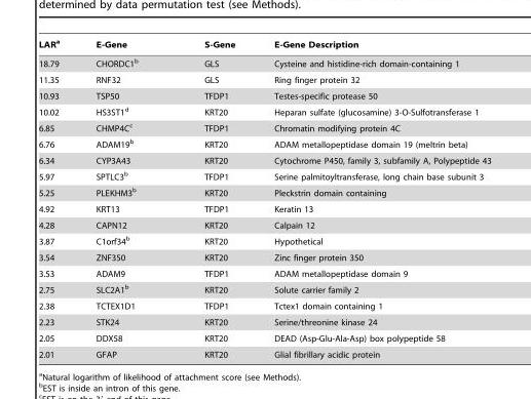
<table><thead><tr><td>LAR<sup>a</sup></td><td>E-Gene</td><td>S-Gene</td><td>E-Gene Description</td></tr></thead><tbody><tr><td>18.79</td><td>CHORDC1<sup>b</sup></td><td>GLS</td><td>Cysteine and histidine-rich domain-containing 1</td></tr><tr><td>11.35</td><td>RNF32</td><td>GLS</td><td>Ring finger protein 32</td></tr><tr><td>10.93</td><td>TSP50</td><td>TFDP1</td><td>Testes-specific protease 50</td></tr><tr><td>10.02</td><td>HS3ST1<sup>d</sup></td><td>KRT20</td><td>Heparan sulfate (glucosamine) 3-O-Sulfotransferase 1</td></tr><tr><td>6.85</td><td>CHMP4C<sup>c</sup></td><td>TFDP1</td><td>Chromatin modifying protein 4C</td></tr><tr><td>6.76</td><td>ADAM19<sup>b</sup></td><td>KRT20</td><td>ADAM metallopeptidase domain 19 (meltrin beta)</td></tr><tr><td>6.34</td><td>CYP3A43</td><td>KRT20</td><td>Cytochrome P450, family 3, subfamily A, Polypeptide 43</td></tr><tr><td>5.97</td><td>SPTLC3<sup>b</sup></td><td>TFDP1</td><td>Serine palmitoyltransferase, long chain base subunit 3</td></tr><tr><td>5.25</td><td>PLEKHM3<sup>b</sup></td><td>KRT20</td><td>Pleckstrin domain containing</td></tr><tr><td>4.92</td><td>KRT13</td><td>TFDP1</td><td>Keratin 13</td></tr><tr><td>4.28</td><td>CAPN12</td><td>KRT20</td><td>Calpain 12</td></tr><tr><td>3.87</td><td>C1orf34<sup>b</sup></td><td>KRT20</td><td>Hypothetical</td></tr><tr><td>3.54</td><td>ZNF350</td><td>KRT20</td><td>Zinc finger protein 350</td></tr><tr><td>3.53</td><td>ADAM9</td><td>TFDP1</td><td>ADAM metallopeptidase domain 9</td></tr><tr><td>2.75</td><td>SLC2A1<sup>b</sup></td><td>KRT20</td><td>Solute carrier family 2</td></tr><tr><td>2.38</td><td>TCTEX1D1</td><td>TFDP1</td><td>Tctex1 domain containing 1</td></tr><tr><td>2.23</td><td>STK24</td><td>KRT20</td><td>Serine/threonine kinase 24</td></tr><tr><td>2.05</td><td>DDX58</td><td>KRT20</td><td>DEAD (Asp-Glu-Ala-Asp) box polypeptide 58</td></tr><tr><td>2.01</td><td>GFAP</td><td>KRT20</td><td>Glial fibrillary acidic protein</td></tr></tbody></table>